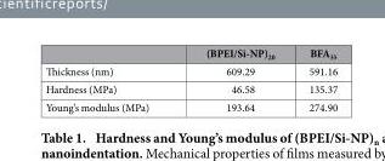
<table><thead><tr><td></td><td>(BPEI/Si-NP)<sub>20</sub></td><td>BFA<sub>35</sub></td></tr></thead><tbody><tr><td>Thickness (nm)</td><td>609.29</td><td>591.16</td></tr><tr><td>Hardness (MPa)</td><td>46.58</td><td>135.37</td></tr><tr><td>Young’s modulus (MPa)</td><td>193.64</td><td>274.90</td></tr></tbody></table>